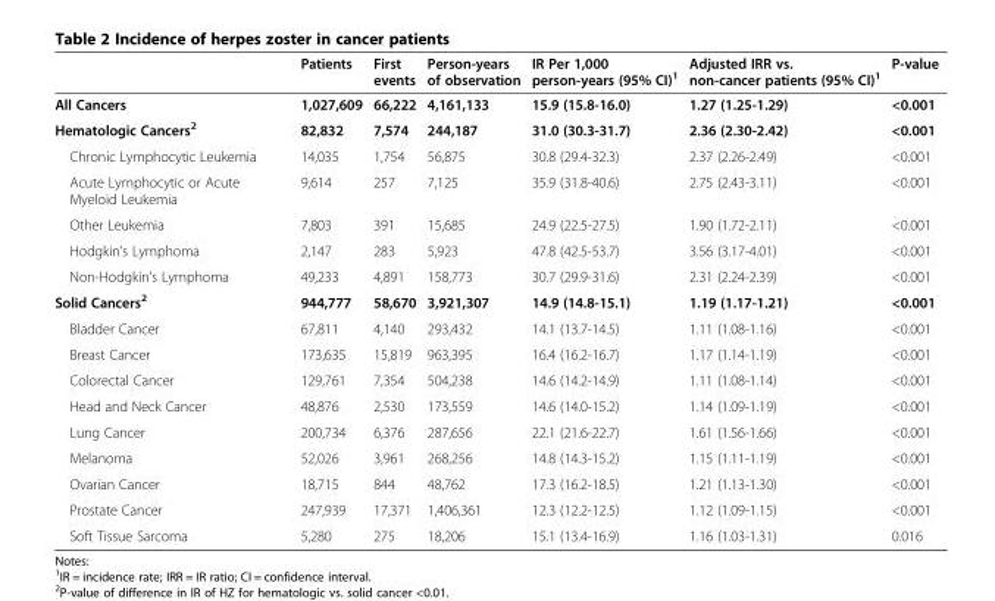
<table><thead><tr><td></td><td>Patients</td><td>First events</td><td>Person-years of observation</td><td>IR Per 1,000 person-years (95% CI)<sup>1</sup></td><td>Adjusted IRR vs. non-cancer patients (95% CI)<sup>1</sup></td><td>P-value</td></tr></thead><tbody><tr><td>All Cancers</td><td>1,027,609</td><td>66,222</td><td>4,161,133</td><td>15.9 (15.8-16.0)</td><td>1.27 (1.25-1.29)</td><td>&lt;0.001</td></tr><tr><td>Hematologic Cancers<sup>2</sup></td><td>82,832</td><td>7,574</td><td>244,187</td><td>31.0 (30.3-31.7)</td><td>2.36 (2.30-2.42)</td><td>&lt;0.001</td></tr><tr><td>Chronic Lymphocytic Leukemia</td><td>14,035</td><td>1,754</td><td>56,875</td><td>30.8 (29.4-32.3)</td><td>2.37 (2.26-2.49)</td><td>&lt;0.001</td></tr><tr><td>Acute Lymphocytic or Acute Myeloid Leukemia</td><td>9,614</td><td>257</td><td>7,125</td><td>35.9 (31.8-40.6)</td><td>2.75 (2.43-3.11)</td><td>&lt;0.001</td></tr><tr><td>Other Leukemia</td><td>7,803</td><td>391</td><td>15,685</td><td>24.9 (22.5-27.5)</td><td>1.90 (1.72-2.11)</td><td>&lt;0.001</td></tr><tr><td>Hodgkin’s Lymphoma</td><td>2,147</td><td>283</td><td>5,923</td><td>47.8 (42.5-53.7)</td><td>3.56 (3.17-4.01)</td><td>&lt;0.001</td></tr><tr><td>Non-Hodgkin’s Lymphoma</td><td>49,233</td><td>4,891</td><td>158,773</td><td>30.7 (29.9-31.6)</td><td>2.31 (2.24-2.39)</td><td>&lt;0.001</td></tr><tr><td>Solid Cancers<sup>2</sup></td><td>944,777</td><td>58,670</td><td>3,921,307</td><td>14.9 (14.8-15.1)</td><td>1.19 (1.17-1.21)</td><td>&lt;0.001</td></tr><tr><td>Bladder Cancer</td><td>67,811</td><td>4,140</td><td>293,432</td><td>14.1 (13.7-14.5)</td><td>1.11 (1.08-1.16)</td><td>&lt;0.001</td></tr><tr><td>Breast Cancer</td><td>173,635</td><td>15,819</td><td>963,395</td><td>16.4 (16.2-16.7)</td><td>1.17 (1.14-1.19)</td><td>&lt;0.001</td></tr><tr><td>Colorectal Cancer</td><td>129,761</td><td>7,354</td><td>504,238</td><td>14.6 (14.2-14.9)</td><td>1.11 (1.08-1.14)</td><td>&lt;0.001</td></tr><tr><td>Head and Neck Cancer</td><td>48,876</td><td>2,530</td><td>173,559</td><td>14.6 (14.0-15.2)</td><td>1.14 (1.09-1.19)</td><td>&lt;0.001</td></tr><tr><td>Lung Cancer</td><td>200,734</td><td>6,376</td><td>287,656</td><td>22.1 (21.6-22.7)</td><td>1.61 (1.56-1.66)</td><td>&lt;0.001</td></tr><tr><td>Melanoma</td><td>52,026</td><td>3,961</td><td>268,256</td><td>14.8 (14.3-15.2)</td><td>1.15 (1.11-1.19)</td><td>&lt;0.001</td></tr><tr><td>Ovarian Cancer</td><td>18,715</td><td>844</td><td>48,762</td><td>17.3 (16.2-18.5)</td><td>1.21 (1.13-1.30)</td><td>&lt;0.001</td></tr><tr><td>Prostate Cancer</td><td>247,939</td><td>17,371</td><td>1,406,361</td><td>12.3 (12.2-12.5)</td><td>1.12 (1.09-1.15)</td><td>&lt;0.001</td></tr><tr><td>Soft Tissue Sarcoma</td><td>5,280</td><td>275</td><td>18,206</td><td>15.1 (13.4-16.9)</td><td>1.16 (1.03-1.31)</td><td>0.016</td></tr></tbody></table>